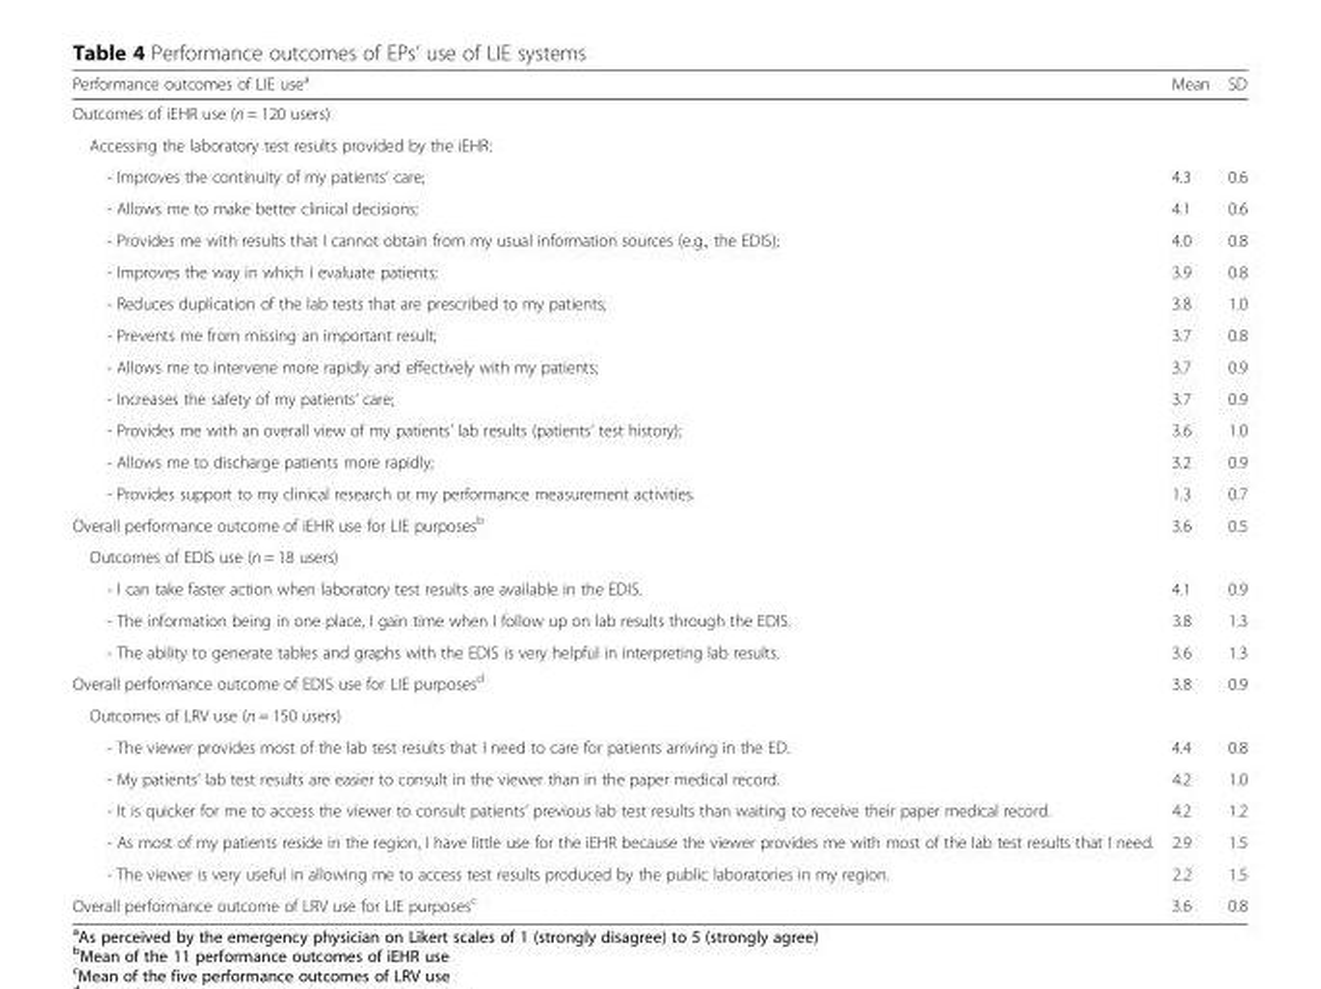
<table><thead><tr><td>Performance outcomes of LIE use<sup>a</sup></td><td>Mean</td><td>SD</td></tr></thead><tbody><tr><td colspan="3">Outcomes of iEHR use (n = 120 users)</td></tr><tr><td colspan="3">Accessing the laboratory test results provided by the iEHR:</td></tr><tr><td>- Improves the continuity of my patients’ care;</td><td>4.3</td><td>0.6</td></tr><tr><td>- Allows me to make better clinical decisions;</td><td>4.1</td><td>0.6</td></tr><tr><td>- Provides me with results that I cannot obtain from my usual information sources (e.g., the EDIS);</td><td>4.0</td><td>0.8</td></tr><tr><td>- Improves the way in which I evaluate patients;</td><td>3.9</td><td>0.8</td></tr><tr><td>- Reduces duplication of the lab tests that are prescribed to my patients;</td><td>3.8</td><td>1.0</td></tr><tr><td>- Prevents me from missing an important result;</td><td>3.7</td><td>0.8</td></tr><tr><td>- Allows me to intervene more rapidly and effectively with my patients;</td><td>3.7</td><td>0.9</td></tr><tr><td>- Increases the safety of my patients’ care;</td><td>3.7</td><td>0.9</td></tr><tr><td>- Provides me with an overall view of my patients’ lab results (patients’ test history);</td><td>3.6</td><td>1.0</td></tr><tr><td>- Allows me to discharge patients more rapidly;</td><td>3.2</td><td>0.9</td></tr><tr><td>- Provides support to my clinical research or my performance measurement activities.</td><td>1.3</td><td>0.7</td></tr><tr><td>Overall performance outcome of iEHR use for LIE purposes<sup>b</sup></td><td>3.6</td><td>0.5</td></tr><tr><td colspan="3">Outcomes of EDIS use (n = 18 users)</td></tr><tr><td>- I can take faster action when laboratory test results are available in the EDIS.</td><td>4.1</td><td>0.9</td></tr><tr><td>- The information being in one place, I gain time when I follow up on lab results through the EDIS.</td><td>3.8</td><td>1.3</td></tr><tr><td>- The ability to generate tables and graphs with the EDIS is very helpful in interpreting lab results.</td><td>3.6</td><td>1.3</td></tr><tr><td>Overall performance outcome of EDIS use for LIE purposes<sup>d</sup></td><td>3.8</td><td>0.9</td></tr><tr><td colspan="3">Outcomes of LRV use (n = 150 users)</td></tr><tr><td>- The viewer provides most of the lab test results that I need to care for patients arriving in the ED.</td><td>4.4</td><td>0.8</td></tr><tr><td>- My patients’ lab test results are easier to consult in the viewer than in the paper medical record.</td><td>4.2</td><td>1.0</td></tr><tr><td>- It is quicker for me to access the viewer to consult patients’ previous lab test results than waiting to receive their paper medical record.</td><td>4.2</td><td>1.2</td></tr><tr><td>- As most of my patients reside in the region, I have little use for the iEHR because the viewer provides me with most of the lab test results that I need.</td><td>2.9</td><td>1.5</td></tr><tr><td>- The viewer is very useful in allowing me to access test results produced by the public laboratories in my region.</td><td>2.2</td><td>1.5</td></tr><tr><td>Overall performance outcome of LRV use for LIE purposes<sup>c</sup></td><td>3.6</td><td>0.8</td></tr></tbody></table>